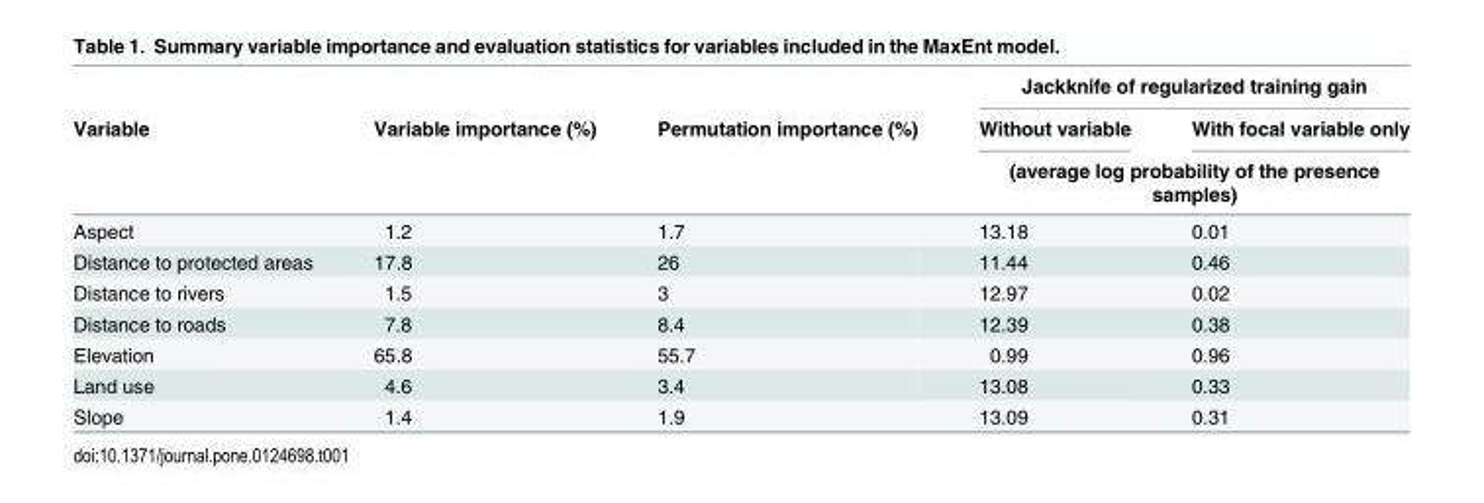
<table><thead><tr><td rowspan="3">Variable</td><td rowspan="3">Variable importance (%)</td><td rowspan="3">Permutation importance (%)</td><td colspan="2">Jackknife of regularized training gain</td></tr><tr><td>Without variable</td><td>With focal variable only</td></tr><tr><td colspan="2">(average log probability of the presence samples)</td></tr></thead><tbody><tr><td>Aspect</td><td>1.2</td><td>1.7</td><td>13.18</td><td>0.01</td></tr><tr><td>Distance to protected areas</td><td>17.8</td><td>26</td><td>11.44</td><td>0.46</td></tr><tr><td>Distance to rivers</td><td>1.5</td><td>3</td><td>12.97</td><td>0.02</td></tr><tr><td>Distance to roads</td><td>7.8</td><td>8.4</td><td>12.39</td><td>0.38</td></tr><tr><td>Elevation</td><td>65.8</td><td>55.7</td><td>0.99</td><td>0.96</td></tr><tr><td>Land use</td><td>4.6</td><td>3.4</td><td>13.08</td><td>0.33</td></tr><tr><td>Slope</td><td>1.4</td><td>1.9</td><td>13.09</td><td>0.31</td></tr></tbody></table>